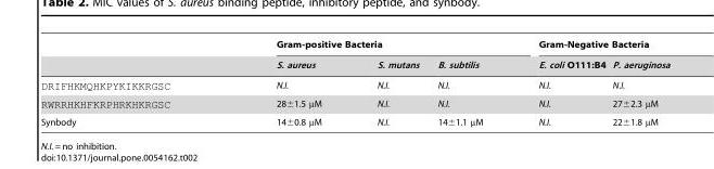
<table><thead><tr><td rowspan="2"></td><td colspan="3">Gram-positive Bacteria</td><td colspan="2">Gram-Negative Bacteria</td></tr><tr><td>S. aureus</td><td>S. mutans</td><td>B. subtilis</td><td>E. coli O111:B4</td><td>P. aeruginosa</td></tr></thead><tbody><tr><td>DRIFHKMQHKPYKIKKRGSC</td><td>N.I.</td><td>N.I.</td><td>N.I.</td><td>N.I.</td><td>N.I.</td></tr><tr><td>RWRRHKHFKRPHRKHKRGSC</td><td>28±1.5 µM</td><td>N.I.</td><td>N.I.</td><td>N.I.</td><td>27±2.3 µM</td></tr><tr><td>Synbody</td><td>14±0.8 µM</td><td>N.I.</td><td>14±1.1 µM</td><td>N.I.</td><td>22±1.8 µM</td></tr></tbody></table>